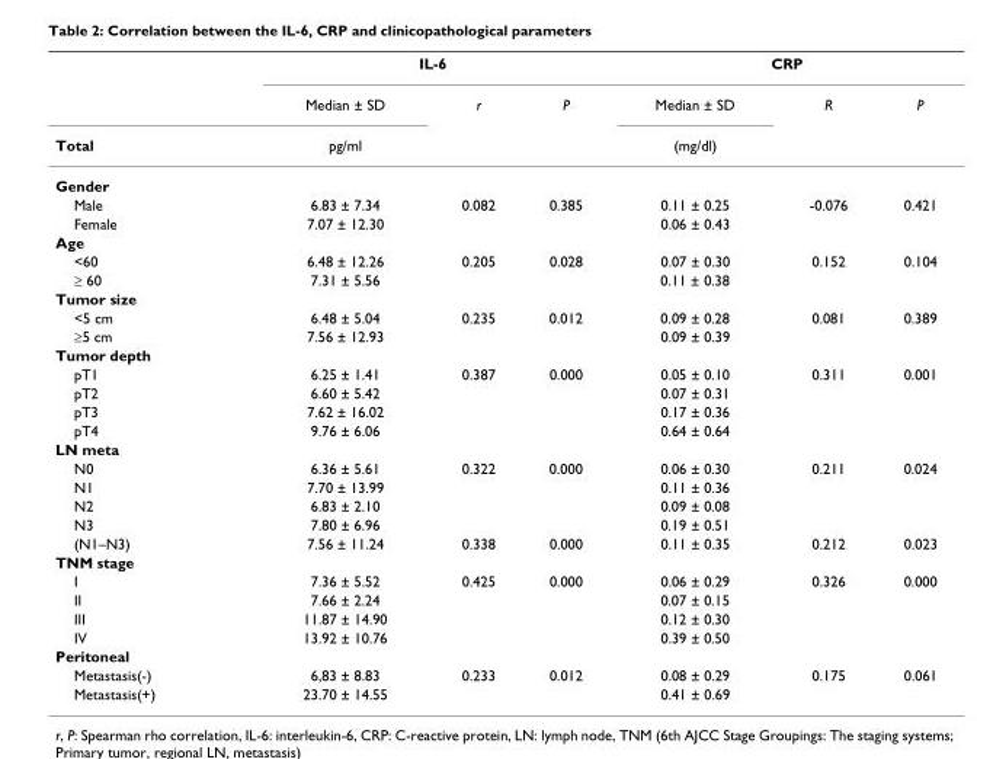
<table><thead><tr><td rowspan="3">Total</td><td colspan="3">IL-6</td><td colspan="3">CRP</td></tr><tr><td rowspan="2">Median ± SD pg/ml</td><td rowspan="2">r</td><td rowspan="2">P</td><td rowspan="2">Median ± SD (mg/dl)</td><td rowspan="2">R</td><td rowspan="2">P</td></tr><tr></tr></thead><tbody><tr><td colspan="7">Gender</td></tr><tr><td>Male</td><td>6.83 ± 7.34</td><td>0.082</td><td>0.385</td><td>0.11 ± 0.25</td><td>-0.076</td><td>0.421</td></tr><tr><td>Female</td><td>7.07 ± 12.30</td><td></td><td></td><td>0.06 ± 0.43</td><td></td><td></td></tr><tr><td colspan="7">Age</td></tr><tr><td>&lt;60</td><td>6.48 ± 12.26</td><td>0.205</td><td>0.028</td><td>0.07 ± 0.30</td><td>0.152</td><td>0.104</td></tr><tr><td>≥ 60</td><td>7.31 ± 5.56</td><td></td><td></td><td>0.11 ± 0.38</td><td></td><td></td></tr><tr><td colspan="7">Tumor size</td></tr><tr><td>&lt;5 cm</td><td>6.48 ± 5.04</td><td>0.235</td><td>0.012</td><td>0.09 ± 0.28</td><td>0.081</td><td>0.389</td></tr><tr><td>≥5 cm</td><td>7.56 ± 12.93</td><td></td><td></td><td>0.09 ± 0.39</td><td></td><td></td></tr><tr><td colspan="7">Tumor depth</td></tr><tr><td>pT1</td><td>6.25 ± 1.41</td><td>0.387</td><td>0.000</td><td>0.05 ± 0.10</td><td>0.311</td><td>0.001</td></tr><tr><td>pT2</td><td>6.60 ± 5.42</td><td></td><td></td><td>0.07 ± 0.31</td><td></td><td></td></tr><tr><td>pT3</td><td>7.62 ± 16.02</td><td></td><td></td><td>0.17 ± 0.36</td><td></td><td></td></tr><tr><td>pT4</td><td>9.76 ± 6.06</td><td></td><td></td><td>0.64 ± 0.64</td><td></td><td></td></tr><tr><td colspan="7">LN meta</td></tr><tr><td>N0</td><td>6.36 ± 5.61</td><td>0.322</td><td>0.000</td><td>0.06 ± 0.30</td><td>0.211</td><td>0.024</td></tr><tr><td>N1</td><td>7.70 ± 13.99</td><td></td><td></td><td>0.11 ± 0.36</td><td></td><td></td></tr><tr><td>N2</td><td>6.83 ± 2.10</td><td></td><td></td><td>0.09 ± 0.08</td><td></td><td></td></tr><tr><td>N3</td><td>7.80 ± 6.96</td><td></td><td></td><td>0.19 ± 0.51</td><td></td><td></td></tr><tr><td>(N1–N3)</td><td>7.56 ± 11.24</td><td>0.338</td><td>0.000</td><td>0.11 ± 0.35</td><td>0.212</td><td>0.023</td></tr><tr><td colspan="7">TNM stage</td></tr><tr><td>I</td><td>7.36 ± 5.52</td><td>0.425</td><td>0.000</td><td>0.06 ± 0.29</td><td>0.326</td><td>0.000</td></tr><tr><td>II</td><td>7.66 ± 2.24</td><td></td><td></td><td>0.07 ± 0.15</td><td></td><td></td></tr><tr><td>III</td><td>11.87 ± 14.90</td><td></td><td></td><td>0.12 ± 0.30</td><td></td><td></td></tr><tr><td>IV</td><td>13.92 ± 10.76</td><td></td><td></td><td>0.39 ± 0.50</td><td></td><td></td></tr><tr><td colspan="7">Peritoneal</td></tr><tr><td>Metastasis(-)</td><td>6,83 ± 8.83</td><td>0.233</td><td>0.012</td><td>0.08 ± 0.29</td><td>0.175</td><td>0.061</td></tr><tr><td>Metastasis(+)</td><td>23.70 ± 14.55</td><td></td><td></td><td>0.41 ± 0.69</td><td></td><td></td></tr></tbody></table>